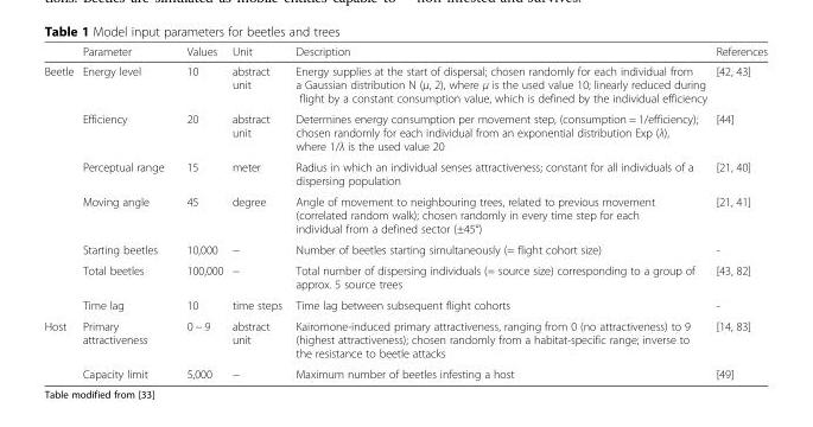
<table><thead><tr><td></td><td>Parameter</td><td>Values</td><td>Unit</td><td>Description</td><td>References</td></tr></thead><tbody><tr><td rowspan="7">Beetle</td><td>Energy level</td><td>10</td><td>abstract unit</td><td>Energy supplies at the start of dispersal; chosen randomly for each individual from a Gaussian distribution N (μ, 2), where μ is the used value 10; linearly reduced during flight by a constant consumption value, which is defined by the individual efficiency</td><td>[42, 43]</td></tr><tr><td>Efficiency</td><td>20</td><td>abstract unit</td><td>Determines energy consumption per movement step, (consumption = 1/efficiency); chosen randomly for each individual from an exponential distribution Exp (λ), where 1/λ is the used value 20</td><td>[44]</td></tr><tr><td>Perceptual range</td><td>15</td><td>meter</td><td>Radius in which an individual senses attractiveness; constant for all individuals of a dispersing population</td><td>[21, 40]</td></tr><tr><td>Moving angle</td><td>45</td><td>degree</td><td>Angle of movement to neighbouring trees, related to previous movement (correlated random walk); chosen randomly in every time step for each individual from a defined sector (±45°)</td><td>[21, 41]</td></tr><tr><td>Starting beetles</td><td>10,000</td><td>−</td><td>Number of beetles starting simultaneously (= flight cohort size)</td><td>-</td></tr><tr><td>Total beetles</td><td>100,000</td><td>−</td><td>Total number of dispersing individuals (= source size) corresponding to a group of approx. 5 source trees</td><td>[43, 82]</td></tr><tr><td>Time lag</td><td>10</td><td>time steps</td><td>Time lag between subsequent flight cohorts</td><td>-</td></tr><tr><td rowspan="2">Host</td><td>Primary attractiveness</td><td>0 − 9</td><td>abstract unit</td><td>Kairomone-induced primary attractiveness, ranging from 0 (no attractiveness) to 9 (highest attractiveness); chosen randomly from a habitat-specific range; inverse to the resistance to beetle attacks</td><td>[14, 83]</td></tr><tr><td>Capacity limit</td><td>5,000</td><td>−</td><td>Maximum number of beetles infesting a host</td><td>[49]</td></tr></tbody></table>